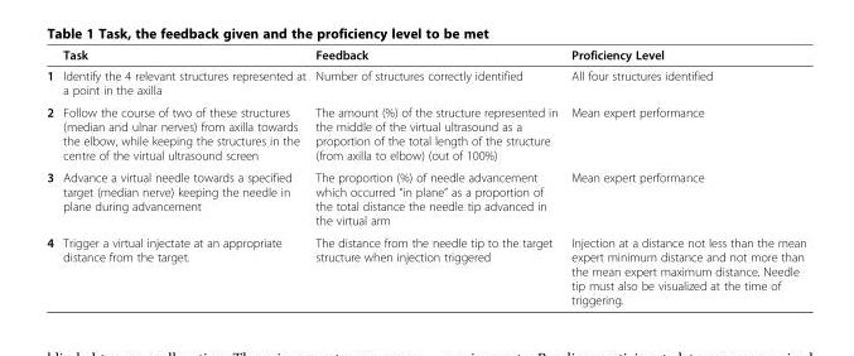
<table><thead><tr><td></td><td>Task</td><td>Feedback</td><td>Proficiency Level</td></tr></thead><tbody><tr><td>1</td><td>Identify the 4 relevant structures represented at a point in the axilla</td><td>Number of structures correctly identified</td><td>All four structures identified</td></tr><tr><td>2</td><td>Follow the course of two of these structures (median and ulnar nerves) from axilla towards the elbow, while keeping the structures in the centre of the virtual ultrasound screen</td><td>The amount (%) of the structure represented in the middle of the virtual ultrasound as a proportion of the total length of the structure (from axilla to elbow) (out of 100%)</td><td>Mean expert performance</td></tr><tr><td>3</td><td>Advance a virtual needle towards a specified target (median nerve) keeping the needle in plane during advancement</td><td>The proportion (%) of needle advancement which occurred “in plane” as a proportion of the total distance the needle tip advanced in the virtual arm</td><td>Mean expert performance</td></tr><tr><td>4</td><td>Trigger a virtual injectate at an appropriate distance from the target.</td><td>The distance from the needle tip to the target structure when injection triggered</td><td>Injection at a distance not less than the mean expert minimum distance and not more than the mean expert maximum distance. Needle tip must also be visualized at the time of triggering.</td></tr></tbody></table>